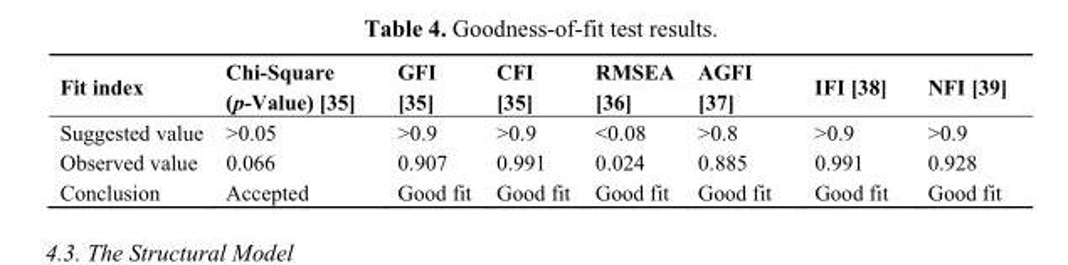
<table><thead><tr><td>Fit index</td><td>Chi-Square (p-Value) [35]</td><td>GFI [35]</td><td>CFI [35]</td><td>RMSEA [36]</td><td>AGFI [37]</td><td>IFI [38]</td><td>NFI [39]</td></tr></thead><tbody><tr><td>Suggested value</td><td>&gt;0.05</td><td>&gt;0.9</td><td>&gt;0.9</td><td>&lt;0.08</td><td>&gt;0.8</td><td>&gt;0.9</td><td>&gt;0.9</td></tr><tr><td>Observed value</td><td>0.066</td><td>0.907</td><td>0.991</td><td>0.024</td><td>0.885</td><td>0.991</td><td>0.928</td></tr><tr><td>Conclusion</td><td>Accepted</td><td>Good fit</td><td>Good fit</td><td>Good fit</td><td>Good fit</td><td>Good fit</td><td>Good fit</td></tr></tbody></table>